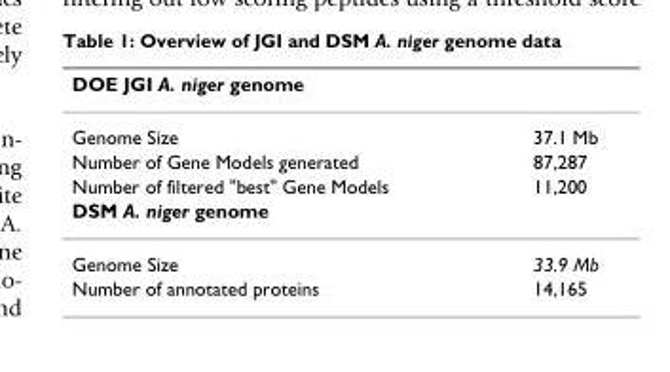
<table><thead><tr><td>DOE JGI A. niger genome</td><td></td></tr></thead><tbody><tr><td>Genome Size</td><td>37.1 Mb</td></tr><tr><td>Number of Gene Models generated</td><td>87,287</td></tr><tr><td>Number of filtered &quot;best&quot; Gene Models</td><td>11,200</td></tr><tr><td colspan="2">DSM A. niger genome</td></tr><tr><td>Genome Size</td><td>33.9 Mb</td></tr><tr><td>Number of annotated proteins</td><td>14,165</td></tr></tbody></table>